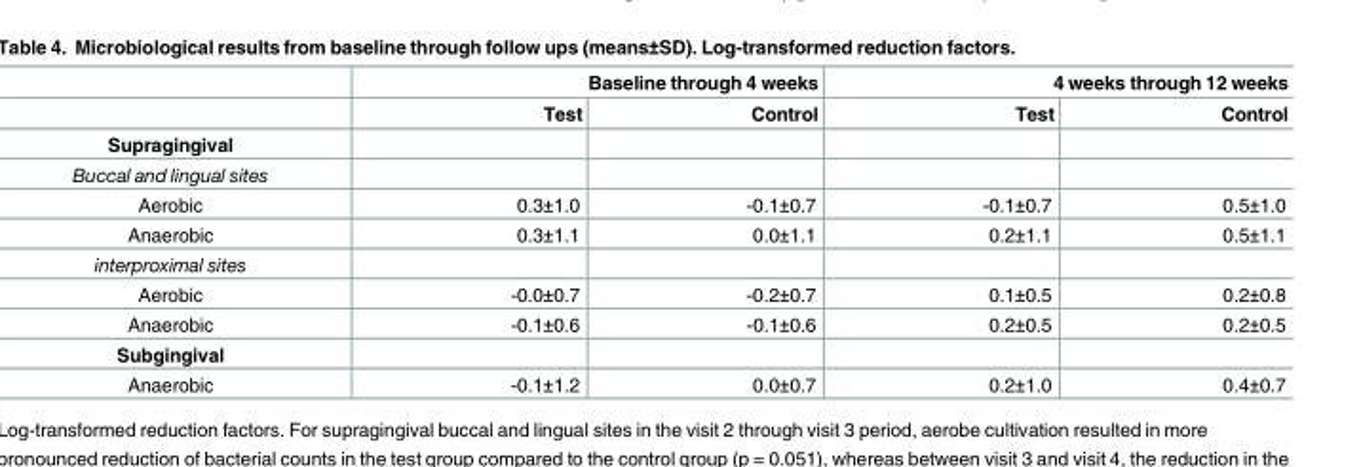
<table><thead><tr><td rowspan="2"></td><td colspan="2">Baseline through 4 weeks</td><td colspan="2">4 weeks through 12 weeks</td></tr><tr><td>Test</td><td>Control</td><td>Test</td><td>Control</td></tr></thead><tbody><tr><td colspan="5">Supragingival</td></tr><tr><td colspan="5">Buccal and lingual sites</td></tr><tr><td>Aerobic</td><td>0.3±1.0</td><td>-0.1±0.7</td><td>-0.1±0.7</td><td>0.5±1.0</td></tr><tr><td>Anaerobic</td><td>0.3±1.1</td><td>0.0±1.1</td><td>0.2±1.1</td><td>0.5±1.1</td></tr><tr><td colspan="5">interproximal sites</td></tr><tr><td>Aerobic</td><td>-0.0±0.7</td><td>-0.2±0.7</td><td>0.1±0.5</td><td>0.2±0.8</td></tr><tr><td>Anaerobic</td><td>-0.1±0.6</td><td>-0.1±0.6</td><td>0.2±0.5</td><td>0.2±0.5</td></tr><tr><td colspan="5">Subgingival</td></tr><tr><td>Anaerobic</td><td>-0.1±1.2</td><td>0.0±0.7</td><td>0.2±1.0</td><td>0.4±0.7</td></tr></tbody></table>